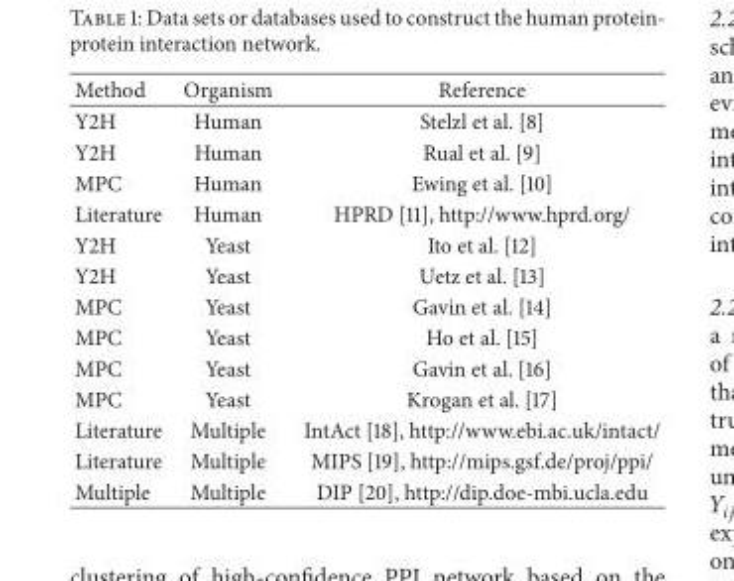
<table><thead><tr><td>Method</td><td>Organism</td><td>Reference</td></tr></thead><tbody><tr><td>Y2H</td><td>Human</td><td>Stelzl et al. [8]</td></tr><tr><td>Y2H</td><td>Human</td><td>Rual et al. [9]</td></tr><tr><td>MPC</td><td>Human</td><td>Ewing et al. [10]</td></tr><tr><td>Literature</td><td>Human</td><td>HPRD [11], http://www.hprd.org/</td></tr><tr><td>Y2H</td><td>Yeast</td><td>Ito et al. [12]</td></tr><tr><td>Y2H</td><td>Yeast</td><td>Uetz et al. [13]</td></tr><tr><td>MPC</td><td>Yeast</td><td>Gavin et al. [14]</td></tr><tr><td>MPC</td><td>Yeast</td><td>Ho et al. [15]</td></tr><tr><td>MPC</td><td>Yeast</td><td>Gavin et al. [16]</td></tr><tr><td>MPC</td><td>Yeast</td><td>Krogan et al. [17]</td></tr><tr><td>Literature</td><td>Multiple</td><td>IntAct [18], http://www.ebi.ac.uk/intact/</td></tr><tr><td>Literature</td><td>Multiple</td><td>MIPS [19], http://mips.gsf.de/proj/ppi/</td></tr><tr><td>Multiple</td><td>Multiple</td><td>DIP [20], http://dip.doe-mbi.ucla.edu</td></tr></tbody></table>